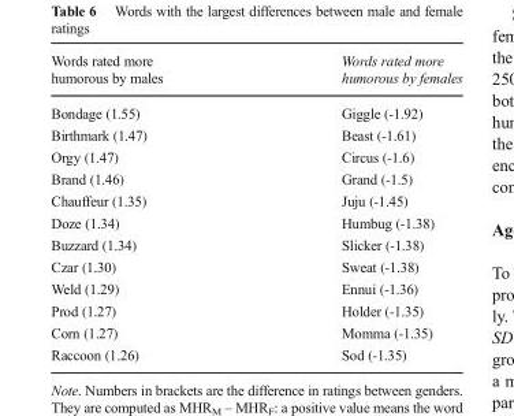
<table><thead><tr><td>Words rated more humorous by males</td><td>Words rated more humorous by females</td></tr></thead><tbody><tr><td>Bondage (1.55)</td><td>Giggle (-1.92)</td></tr><tr><td>Birthmark (1.47)</td><td>Beast (-1.61)</td></tr><tr><td>Orgy (1.47)</td><td>Circus (-1.6)</td></tr><tr><td>Brand (1.46)</td><td>Grand (-1.5)</td></tr><tr><td>Chauffeur (1.35)</td><td>Juju (-1.45)</td></tr><tr><td>Doze (1.34)</td><td>Humbug (-1.38)</td></tr><tr><td>Buzzard (1.34)</td><td>Slicker (-1.38)</td></tr><tr><td>Czar (1.30)</td><td>Sweat (-1.38)</td></tr><tr><td>Weld (1.29)</td><td>Ennui (-1.36)</td></tr><tr><td>Prod (1.27)</td><td>Holder (-1.35)</td></tr><tr><td>Corn (1.27)</td><td>Momma (-1.35)</td></tr><tr><td>Raccoon (1.26)</td><td>Sod (-1.35)</td></tr></tbody></table>